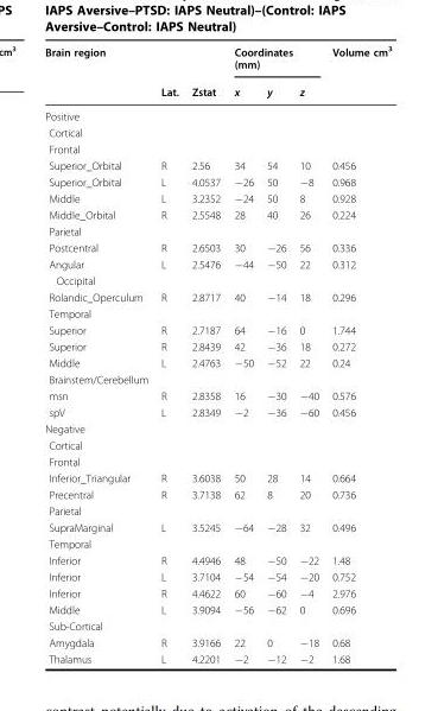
<table><thead><tr><td rowspan="2">Brain region</td><td rowspan="2">Lat.</td><td rowspan="2">Zstat</td><td colspan="3">Coordinates (mm)</td><td rowspan="2">Volume cm<sup>3</sup></td></tr><tr><td>x</td><td>y</td><td>z</td></tr></thead><tbody><tr><td colspan="7">Positive</td></tr><tr><td colspan="7">Cortical</td></tr><tr><td colspan="7">Frontal</td></tr><tr><td>Superior_Orbital</td><td>R</td><td>2.56</td><td>34</td><td>54</td><td>10</td><td>0.456</td></tr><tr><td>Superior_Orbital</td><td>L</td><td>4.0537</td><td>−26</td><td>50</td><td>−8</td><td>0.968</td></tr><tr><td>Middle</td><td>L</td><td>3.2352</td><td>−24</td><td>50</td><td>8</td><td>0.928</td></tr><tr><td>Middle_Orbital</td><td>R</td><td>2.5548</td><td>28</td><td>40</td><td>26</td><td>0.224</td></tr><tr><td colspan="7">Parietal</td></tr><tr><td>Postcentral</td><td>R</td><td>2.6503</td><td>30</td><td>−26</td><td>56</td><td>0.336</td></tr><tr><td>Angular</td><td>L</td><td>2.5476</td><td>−44</td><td>−50</td><td>22</td><td>0.312</td></tr><tr><td colspan="7">Occipital</td></tr><tr><td>Rolandic_Operculum</td><td>R</td><td>2.8717</td><td>40</td><td>−14</td><td>18</td><td>0.296</td></tr><tr><td colspan="7">Temporal</td></tr><tr><td>Superior</td><td>R</td><td>2.7187</td><td>64</td><td>−16</td><td>0</td><td>1.744</td></tr><tr><td>Superior</td><td>R</td><td>2.8439</td><td>42</td><td>−36</td><td>18</td><td>0.272</td></tr><tr><td>Middle</td><td>L</td><td>2.4763</td><td>−50</td><td>−52</td><td>22</td><td>0.24</td></tr><tr><td colspan="7">Brainstem/Cerebellum</td></tr><tr><td>msn</td><td>R</td><td>2.8358</td><td>16</td><td>−30</td><td>−40</td><td>0.576</td></tr><tr><td>spV</td><td>L</td><td>2.8349</td><td>−2</td><td>−36</td><td>−60</td><td>0.456</td></tr><tr><td colspan="7">Negative</td></tr><tr><td colspan="7">Cortical</td></tr><tr><td colspan="7">Frontal</td></tr><tr><td>Inferior_Triangular</td><td>R</td><td>3.6038</td><td>50</td><td>28</td><td>14</td><td>0.664</td></tr><tr><td>Precentral</td><td>R</td><td>3.7138</td><td>62</td><td>8</td><td>20</td><td>0.736</td></tr><tr><td colspan="7">Parietal</td></tr><tr><td>SupraMarginal</td><td>L</td><td>3.5245</td><td>−64</td><td>−28</td><td>32</td><td>0.496</td></tr><tr><td colspan="7">Temporal</td></tr><tr><td>Inferior</td><td>R</td><td>4.4946</td><td>48</td><td>−50</td><td>−22</td><td>1.48</td></tr><tr><td>Inferior</td><td>L</td><td>3.7104</td><td>−54</td><td>−54</td><td>−20</td><td>0.752</td></tr><tr><td>Inferior</td><td>R</td><td>4.4622</td><td>60</td><td>−60</td><td>−4</td><td>2.976</td></tr><tr><td>Middle</td><td>L</td><td>3.9094</td><td>−56</td><td>−62</td><td>0</td><td>0.696</td></tr><tr><td colspan="7">Sub-Cortical</td></tr><tr><td>Amygdala</td><td>R</td><td>3.9166</td><td>22</td><td>0</td><td>−18</td><td>0.68</td></tr><tr><td>Thalamus</td><td>L</td><td>4.2201</td><td>−2</td><td>−12</td><td>−2</td><td>1.68</td></tr></tbody></table>